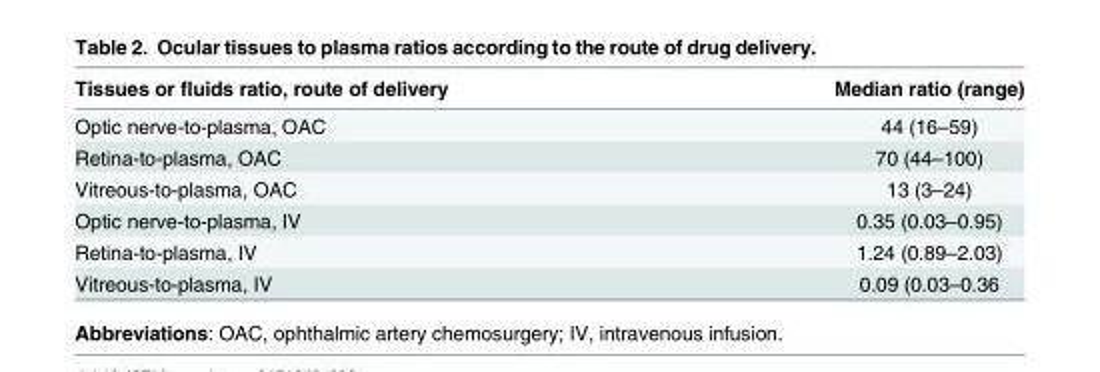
<table><thead><tr><td>Tissues or fluids ratio, route of delivery</td><td>Median ratio (range)</td></tr></thead><tbody><tr><td>Optic nerve-to-plasma, OAC</td><td>44 (16–59)</td></tr><tr><td>Retina-to-plasma, OAC</td><td>70 (44–100)</td></tr><tr><td>Vitreous-to-plasma, OAC</td><td>13 (3–24)</td></tr><tr><td>Optic nerve-to-plasma, IV</td><td>0.35 (0.03–0.95)</td></tr><tr><td>Retina-to-plasma, IV</td><td>1.24 (0.89–2.03)</td></tr><tr><td>Vitreous-to-plasma, IV</td><td>0.09 (0.03–0.36</td></tr></tbody></table>